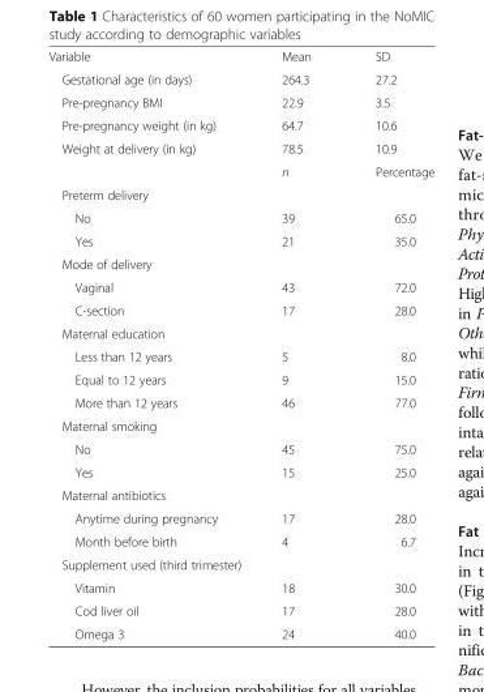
<table><tbody><tr><td>Variable</td><td>Mean</td><td>SD</td></tr><tr><td>Gestational age (in days)</td><td>264.3</td><td>27.2</td></tr><tr><td>Pre-pregnancy BMI</td><td>22.9</td><td>3.5</td></tr><tr><td>Pre-pregnancy weight (in kg)</td><td>64.7</td><td>10.6</td></tr><tr><td rowspan="2">Weight at delivery (in kg)</td><td>78.5</td><td>10.9</td></tr><tr><td>n</td><td>Percentage</td></tr><tr><td colspan="3">Preterm delivery</td></tr><tr><td>No</td><td>39</td><td>65.0</td></tr><tr><td>Yes</td><td>21</td><td>35.0</td></tr><tr><td colspan="3">Mode of delivery</td></tr><tr><td>Vaginal</td><td>43</td><td>72.0</td></tr><tr><td>C-section</td><td>17</td><td>28.0</td></tr><tr><td colspan="3">Maternal education</td></tr><tr><td>Less than 12 years</td><td>5</td><td>8.0</td></tr><tr><td>Equal to 12 years</td><td>9</td><td>15.0</td></tr><tr><td>More than 12 years</td><td>46</td><td>77.0</td></tr><tr><td colspan="3">Maternal smoking</td></tr><tr><td>No</td><td>45</td><td>75.0</td></tr><tr><td>Yes</td><td>15</td><td>25.0</td></tr><tr><td colspan="3">Maternal antibiotics</td></tr><tr><td>Anytime during pregnancy</td><td>17</td><td>28.0</td></tr><tr><td>Month before birth</td><td>4</td><td>6.7</td></tr><tr><td colspan="3">Supplement used (third trimester)</td></tr><tr><td>Vitamin</td><td>18</td><td>30.0</td></tr><tr><td>Cod liver oil</td><td>17</td><td>28.0</td></tr><tr><td>Omega 3</td><td>24</td><td>40.0</td></tr></tbody></table>